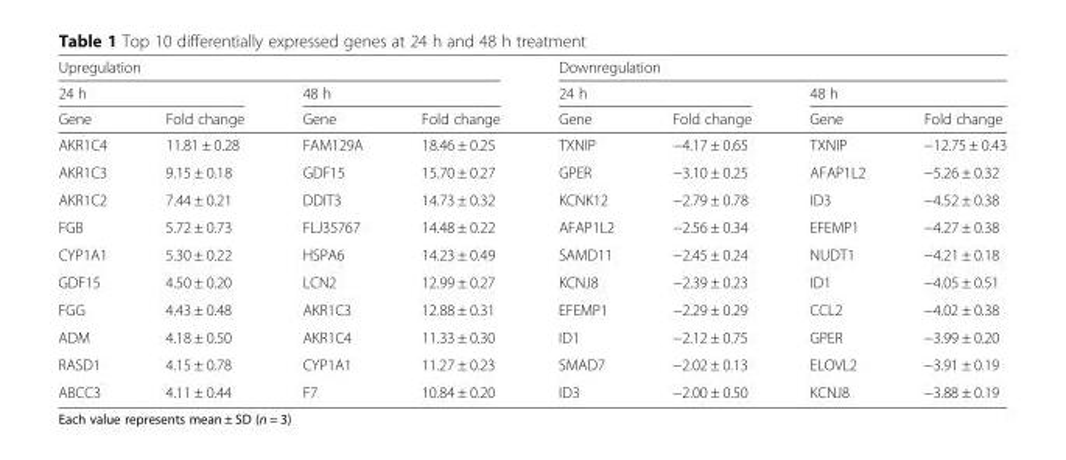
<table><thead><tr><td colspan="4">Upregulation</td><td colspan="4">Downregulation</td></tr><tr><td colspan="2">24 h</td><td colspan="2">48 h</td><td colspan="2">24 h</td><td colspan="2">48 h</td></tr><tr><td>Gene</td><td>Fold change</td><td>Gene</td><td>Fold change</td><td>Gene</td><td>Fold change</td><td>Gene</td><td>Fold change</td></tr></thead><tbody><tr><td>AKR1C4</td><td>11.81 ± 0.28</td><td>FAM129A</td><td>18.46 ± 0.25</td><td>TXNIP</td><td>−4.17 ± 0.65</td><td>TXNIP</td><td>−12.75 ± 0.43</td></tr><tr><td>AKR1C3</td><td>9.15 ± 0.18</td><td>GDF15</td><td>15.70 ± 0.27</td><td>GPER</td><td>−3.10 ± 0.25</td><td>AFAP1L2</td><td>−5.26 ± 0.32</td></tr><tr><td>AKR1C2</td><td>7.44 ± 0.21</td><td>DDIT3</td><td>14.73 ± 0.32</td><td>KCNK12</td><td>−2.79 ± 0.78</td><td>ID3</td><td>−4.52 ± 0.38</td></tr><tr><td>FGB</td><td>5.72 ± 0.73</td><td>FLJ35767</td><td>14.48 ± 0.22</td><td>AFAP1L2</td><td>−2.56 ± 0.34</td><td>EFEMP1</td><td>−4.27 ± 0.38</td></tr><tr><td>CYP1A1</td><td>5.30 ± 0.22</td><td>HSPA6</td><td>14.23 ± 0.49</td><td>SAMD11</td><td>−2.45 ± 0.24</td><td>NUDT1</td><td>−4.21 ± 0.18</td></tr><tr><td>GDF15</td><td>4.50 ± 0.20</td><td>LCN2</td><td>12.99 ± 0.27</td><td>KCNJ8</td><td>−2.39 ± 0.23</td><td>ID1</td><td>−4.05 ± 0.51</td></tr><tr><td>FGG</td><td>4.43 ± 0.48</td><td>AKR1C3</td><td>12.88 ± 0.31</td><td>EFEMP1</td><td>−2.29 ± 0.29</td><td>CCL2</td><td>−4.02 ± 0.38</td></tr><tr><td>ADM</td><td>4.18 ± 0.50</td><td>AKR1C4</td><td>11.33 ± 0.30</td><td>ID1</td><td>−2.12 ± 0.75</td><td>GPER</td><td>−3.99 ± 0.20</td></tr><tr><td>RASD1</td><td>4.15 ± 0.78</td><td>CYP1A1</td><td>11.27 ± 0.23</td><td>SMAD7</td><td>−2.02 ± 0.13</td><td>ELOVL2</td><td>−3.91 ± 0.19</td></tr><tr><td>ABCC3</td><td>4.11 ± 0.44</td><td>F7</td><td>10.84 ± 0.20</td><td>ID3</td><td>−2.00 ± 0.50</td><td>KCNJ8</td><td>−3.88 ± 0.19</td></tr></tbody></table>